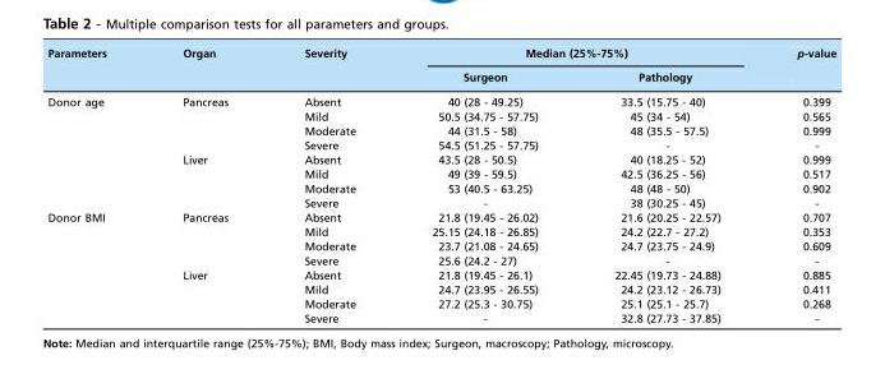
<table><thead><tr><td rowspan="2">Parameters</td><td rowspan="2">Organ</td><td rowspan="2">Severity</td><td colspan="2">Median (25%-75%)</td><td rowspan="2">p-value</td></tr><tr><td>Surgeon</td><td>Pathology</td></tr></thead><tbody><tr><td rowspan="8">Donor age</td><td rowspan="4">Pancreas</td><td>Absent</td><td>40 (28 - 49.25)</td><td>33.5 (15.75 - 40)</td><td>0.399</td></tr><tr><td>Mild</td><td>50.5 (34.75 - 57.75)</td><td>45 (34 - 54)</td><td>0.565</td></tr><tr><td>Moderate</td><td>44 (31.5 - 58)</td><td>48 (35.5 - 57.5)</td><td>0.999</td></tr><tr><td>Severe</td><td>54.5 (51.25 - 57.75)</td><td>-</td><td>-</td></tr><tr><td rowspan="4">Liver</td><td>Absent</td><td>43.5 (28 - 50.5)</td><td>40 (18.25 - 52)</td><td>0.999</td></tr><tr><td>Mild</td><td>49 (39 - 59.5)</td><td>42.5 (36.25 - 56)</td><td>0.517</td></tr><tr><td>Moderate</td><td>53 (40.5 - 63.25)</td><td>48 (48 - 50)</td><td>0.902</td></tr><tr><td>Severe</td><td>-</td><td>38 (30.25 - 45)</td><td>-</td></tr><tr><td rowspan="8">Donor BMI</td><td rowspan="4">Pancreas</td><td>Absent</td><td>21.8 (19.45 - 26.02)</td><td>21.6 (20.25 - 22.57)</td><td>0.707</td></tr><tr><td>Mild</td><td>25.15 (24.18 - 26.85)</td><td>24.2 (22.7 - 27.2)</td><td>0.353</td></tr><tr><td>Moderate</td><td>23.7 (21.08 - 24.65)</td><td>24.7 (23.75 - 24.9)</td><td>0.609</td></tr><tr><td>Severe</td><td>25.6 (24.2 - 27)</td><td>-</td><td>-</td></tr><tr><td rowspan="4">Liver</td><td>Absent</td><td>21.8 (19.45 - 26.1)</td><td>22.45 (19.73 - 24.88)</td><td>0.885</td></tr><tr><td>Mild</td><td>24.7 (23.95 - 26.55)</td><td>24.2 (23.12 - 26.73)</td><td>0.411</td></tr><tr><td>Moderate</td><td>27.2 (25.3 - 30.75)</td><td>25.1 (25.1 - 25.7)</td><td>0.268</td></tr><tr><td>Severe</td><td>-</td><td>32.8 (27.73 - 37.85)</td><td>-</td></tr></tbody></table>